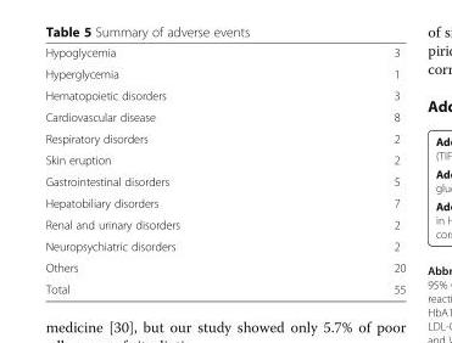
<table><tbody><tr><td>Hypoglycemia</td><td>3</td></tr><tr><td>Hyperglycemia</td><td>1</td></tr><tr><td>Hematopoietic disorders</td><td>3</td></tr><tr><td>Cardiovascular disease</td><td>8</td></tr><tr><td>Respiratory disorders</td><td>2</td></tr><tr><td>Skin eruption</td><td>2</td></tr><tr><td>Gastrointestinal disorders</td><td>5</td></tr><tr><td>Hepatobiliary disorders</td><td>7</td></tr><tr><td>Renal and urinary disorders</td><td>2</td></tr><tr><td>Neuropsychiatric disorders</td><td>2</td></tr><tr><td>Others</td><td>20</td></tr><tr><td>Total</td><td>55</td></tr></tbody></table>